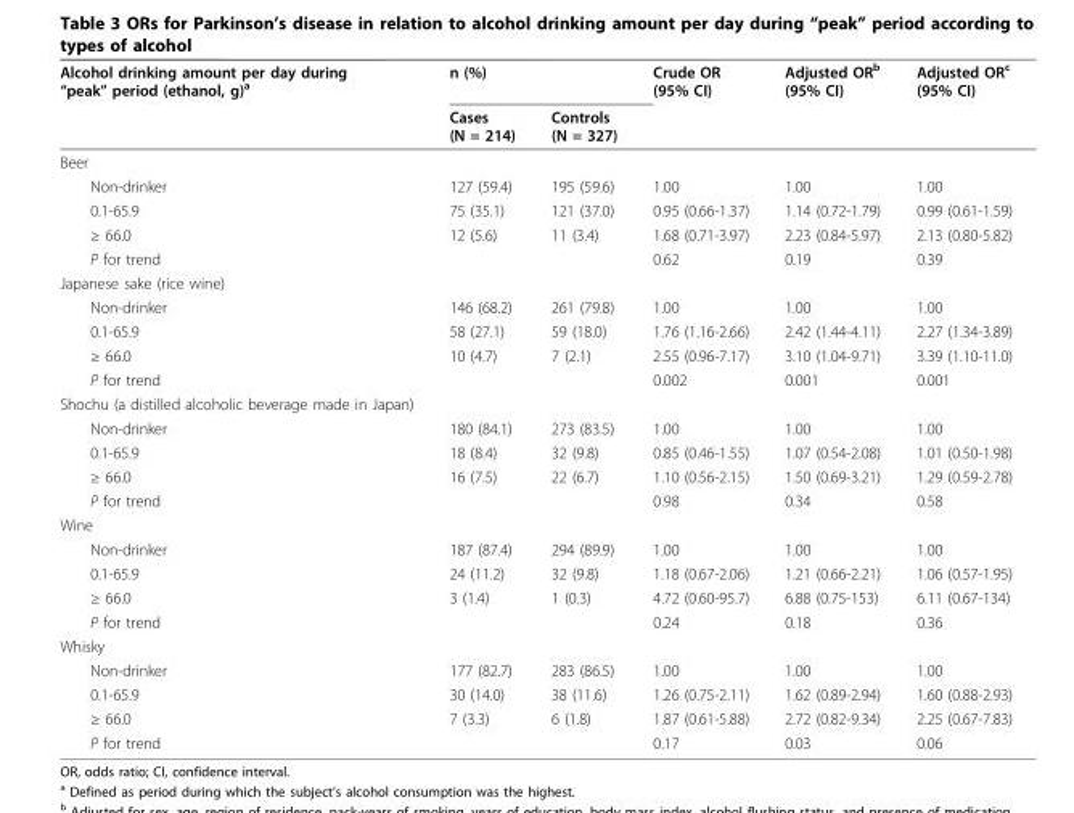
<table><thead><tr><td rowspan="2">Alcohol drinking amount per day during “peak” period (ethanol, g)a</td><td rowspan="2">n (%) Cases (N = 214)</td><td rowspan="2">Controls (N = 327)</td><td rowspan="2">Crude OR (95% CI)</td><td rowspan="2">Adjusted OR<sup>b</sup> (95% CI)</td><td rowspan="2">Adjusted OR<sup>c</sup> (95% CI)</td></tr><tr></tr></thead><tbody><tr><td colspan="6">Beer</td></tr><tr><td>Non-drinker</td><td>127 (59.4)</td><td>195 (59.6)</td><td>1.00</td><td>1.00</td><td>1.00</td></tr><tr><td>0.1-65.9</td><td>75 (35.1)</td><td>121 (37.0)</td><td>0.95 (0.66-1.37)</td><td>1.14 (0.72-1.79)</td><td>0.99 (0.61-1.59)</td></tr><tr><td>≥ 66.0</td><td>12 (5.6)</td><td>11 (3.4)</td><td>1.68 (0.71-3.97)</td><td>2.23 (0.84-5.97)</td><td>2.13 (0.80-5.82)</td></tr><tr><td>P for trend</td><td></td><td></td><td>0.62</td><td>0.19</td><td>0.39</td></tr><tr><td colspan="6">Japanese sake (rice wine)</td></tr><tr><td>Non-drinker</td><td>146 (68.2)</td><td>261 (79.8)</td><td>1.00</td><td>1.00</td><td>1.00</td></tr><tr><td>0.1-65.9</td><td>58 (27.1)</td><td>59 (18.0)</td><td>1.76 (1.16-2.66)</td><td>2.42 (1.44-4.11)</td><td>2.27 (1.34-3.89)</td></tr><tr><td>≥ 66.0</td><td>10 (4.7)</td><td>7 (2.1)</td><td>2.55 (0.96-7.17)</td><td>3.10 (1.04-9.71)</td><td>3.39 (1.10-11.0)</td></tr><tr><td>P for trend</td><td></td><td></td><td>0.002</td><td>0.001</td><td>0.001</td></tr><tr><td colspan="6">Shochu (a distilled alcoholic beverage made in Japan)</td></tr><tr><td>Non-drinker</td><td>180 (84.1)</td><td>273 (83.5)</td><td>1.00</td><td>1.00</td><td>1.00</td></tr><tr><td>0.1-65.9</td><td>18 (8.4)</td><td>32 (9.8)</td><td>0.85 (0.46-1.55)</td><td>1.07 (0.54-2.08)</td><td>1.01 (0.50-1.98)</td></tr><tr><td>≥ 66.0</td><td>16 (7.5)</td><td>22 (6.7)</td><td>1.10 (0.56-2.15)</td><td>1.50 (0.69-3.21)</td><td>1.29 (0.59-2.78)</td></tr><tr><td>P for trend</td><td></td><td></td><td>0.98</td><td>0.34</td><td>0.58</td></tr><tr><td colspan="6">Wine</td></tr><tr><td>Non-drinker</td><td>187 (87.4)</td><td>294 (89.9)</td><td>1.00</td><td>1.00</td><td>1.00</td></tr><tr><td>0.1-65.9</td><td>24 (11.2)</td><td>32 (9.8)</td><td>1.18 (0.67-2.06)</td><td>1.21 (0.66-2.21)</td><td>1.06 (0.57-1.95)</td></tr><tr><td>≥ 66.0</td><td>3 (1.4)</td><td>1 (0.3)</td><td>4.72 (0.60-95.7)</td><td>6.88 (0.75-153)</td><td>6.11 (0.67-134)</td></tr><tr><td>P for trend</td><td></td><td></td><td>0.24</td><td>0.18</td><td>0.36</td></tr><tr><td colspan="6">Whisky</td></tr><tr><td>Non-drinker</td><td>177 (82.7)</td><td>283 (86.5)</td><td>1.00</td><td>1.00</td><td>1.00</td></tr><tr><td>0.1-65.9</td><td>30 (14.0)</td><td>38 (11.6)</td><td>1.26 (0.75-2.11)</td><td>1.62 (0.89-2.94)</td><td>1.60 (0.88-2.93)</td></tr><tr><td>≥ 66.0</td><td>7 (3.3)</td><td>6 (1.8)</td><td>1.87 (0.61-5.88)</td><td>2.72 (0.82-9.34)</td><td>2.25 (0.67-7.83)</td></tr><tr><td>P for trend</td><td></td><td></td><td>0.17</td><td>0.03</td><td>0.06</td></tr></tbody></table>